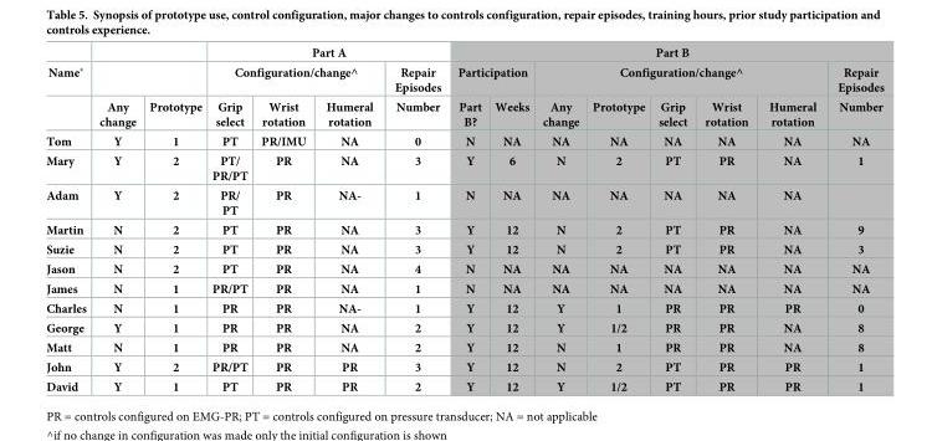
<table><thead><tr><td rowspan="3">Name*</td><td rowspan="3">Any change</td><td rowspan="3">Prototype</td><td colspan="4">Part A</td><td colspan="8">Part B</td></tr><tr><td colspan="3">Configuration/change^</td><td rowspan="2">Repair Episodes Number</td><td colspan="2">Participation</td><td colspan="5">Configuration/change^</td><td rowspan="2">Repair Episodes Number</td></tr><tr><td>Grip select</td><td>Wrist rotation</td><td>Humeral rotation</td><td>Part B?</td><td>Weeks</td><td>Any change</td><td>Prototype</td><td>Grip select</td><td>Wrist rotation</td><td>Humeral rotation</td></tr></thead><tbody><tr><td>Tom</td><td>Y</td><td>1</td><td>PT</td><td>PR/IMU</td><td>NA</td><td>0</td><td>N</td><td>NA</td><td>NA</td><td>NA</td><td>NA</td><td>NA</td><td>NA</td><td>NA</td></tr><tr><td>Mary</td><td>Y</td><td>2</td><td>PT/ PR/PT</td><td>PR</td><td>NA</td><td>3</td><td>Y</td><td>6</td><td>N</td><td>2</td><td>PT</td><td>PR</td><td>NA</td><td>1</td></tr><tr><td>Adam</td><td>Y</td><td>2</td><td>PR/ PT</td><td>PR</td><td>NA-</td><td>1</td><td>N</td><td>NA</td><td>NA</td><td>NA</td><td>NA</td><td>NA</td><td>NA</td><td></td></tr><tr><td>Martin</td><td>N</td><td>2</td><td>PT</td><td>PR</td><td>NA</td><td>3</td><td>Y</td><td>12</td><td>N</td><td>2</td><td>PT</td><td>PR</td><td>NA</td><td>9</td></tr><tr><td>Suzie</td><td>N</td><td>2</td><td>PT</td><td>PR</td><td>NA</td><td>3</td><td>Y</td><td>12</td><td>N</td><td>2</td><td>PT</td><td>PR</td><td>NA</td><td>3</td></tr><tr><td>Jason</td><td>N</td><td>2</td><td>PT</td><td>PR</td><td>NA</td><td>4</td><td>N</td><td>NA</td><td>NA</td><td>NA</td><td>NA</td><td>NA</td><td>NA</td><td>NA</td></tr><tr><td>James</td><td>N</td><td>1</td><td>PR/PT</td><td>PR</td><td>NA</td><td>1</td><td>N</td><td>NA</td><td>NA</td><td>NA</td><td>NA</td><td>NA</td><td>NA</td><td>NA</td></tr><tr><td>Charles</td><td>N</td><td>1</td><td>PR</td><td>PR</td><td>NA-</td><td>1</td><td>Y</td><td>12</td><td>Y</td><td>1</td><td>PR</td><td>PR</td><td>PR</td><td>0</td></tr><tr><td>George</td><td>Y</td><td>1</td><td>PR</td><td>PR</td><td>NA</td><td>2</td><td>Y</td><td>12</td><td>Y</td><td>1/2</td><td>PR</td><td>PR</td><td>NA</td><td>8</td></tr><tr><td>Matt</td><td>N</td><td>1</td><td>PR</td><td>PR</td><td>NA</td><td>2</td><td>Y</td><td>12</td><td>N</td><td>1</td><td>PR</td><td>PR</td><td>NA</td><td>8</td></tr><tr><td>John</td><td>Y</td><td>2</td><td>PR/PT</td><td>PR</td><td>PR</td><td>3</td><td>Y</td><td>12</td><td>N</td><td>2</td><td>PT</td><td>PR</td><td>PR</td><td>1</td></tr><tr><td>David</td><td>Y</td><td>1</td><td>PT</td><td>PR</td><td>PR</td><td>2</td><td>Y</td><td>12</td><td>Y</td><td>1/2</td><td>PT</td><td>PR</td><td>PR</td><td>1</td></tr></tbody></table>